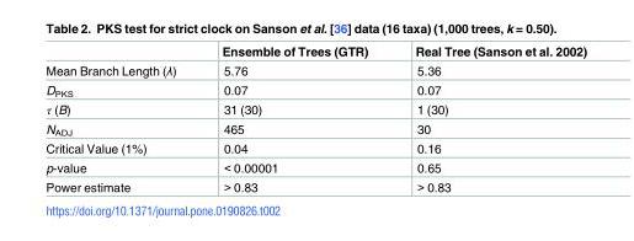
<table><thead><tr><td></td><td>Ensemble of Trees (GTR)</td><td>Real Tree (Sanson et al. 2002)</td></tr></thead><tbody><tr><td>Mean Branch Length (λ)</td><td>5.76</td><td>5.36</td></tr><tr><td>D<sub>PKS</sub></td><td>0.07</td><td>0.07</td></tr><tr><td>τ (B)</td><td>31 (30)</td><td>1 (30)</td></tr><tr><td>N<sub>ADJ</sub></td><td>465</td><td>30</td></tr><tr><td>Critical Value (1%)</td><td>0.04</td><td>0.16</td></tr><tr><td>p-value</td><td>&lt; 0.00001</td><td>0.65</td></tr><tr><td>Power estimate</td><td>&gt; 0.83</td><td>&gt; 0.83</td></tr></tbody></table>